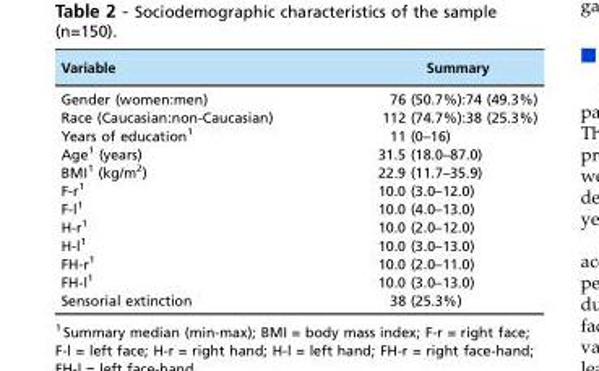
<table><thead><tr><td>Variable</td><td>Summary</td></tr></thead><tbody><tr><td>Gender (women:men)</td><td>76 (50.7%):74 (49.3%)</td></tr><tr><td>Race (Caucasian:non-Caucasian)</td><td>112 (74.7%):38 (25.3%)</td></tr><tr><td>Years of education<sup>1</sup></td><td>11 (0–16)</td></tr><tr><td>Age<sup>1</sup> (years)</td><td>31.5 (18.0–87.0)</td></tr><tr><td>BMI<sup>1</sup> (kg/m<sup>2</sup>)</td><td>22.9 (11.7–35.9)</td></tr><tr><td>F-r<sup>1</sup></td><td>10.0 (3.0–12.0)</td></tr><tr><td>F-l<sup>1</sup></td><td>10.0 (4.0–13.0)</td></tr><tr><td>H-r<sup>1</sup></td><td>10.0 (2.0–12.0)</td></tr><tr><td>H-l<sup>1</sup></td><td>10.0 (3.0–13.0)</td></tr><tr><td>FH-r<sup>1</sup></td><td>10.0 (2.0–11.0)</td></tr><tr><td>FH-l<sup>1</sup></td><td>10.0 (3.0–13.0)</td></tr><tr><td>Sensorial extinction</td><td>38 (25.3%)</td></tr></tbody></table>